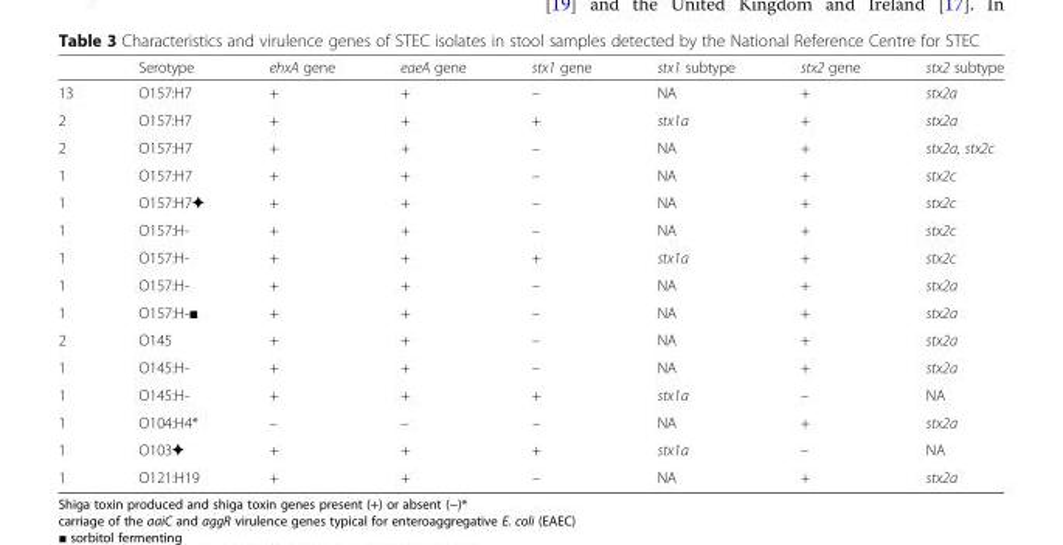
<table><thead><tr><td></td><td>Serotype</td><td>ehxA gene</td><td>eaeA gene</td><td>stx1 gene</td><td>stx1 subtype</td><td>stx2 gene</td><td>stx2 subtype</td></tr></thead><tbody><tr><td>13</td><td>O157:H7</td><td>+</td><td>+</td><td>–</td><td>NA</td><td>+</td><td>stx2a</td></tr><tr><td>2</td><td>O157:H7</td><td>+</td><td>+</td><td>+</td><td>stx1a</td><td>+</td><td>stx2a</td></tr><tr><td>2</td><td>O157:H7</td><td>+</td><td>+</td><td>–</td><td>NA</td><td>+</td><td>stx2a, stx2c</td></tr><tr><td>1</td><td>O157:H7</td><td>+</td><td>+</td><td>–</td><td>NA</td><td>+</td><td>stx2c</td></tr><tr><td>1</td><td>O157:H7✦</td><td>+</td><td>+</td><td>–</td><td>NA</td><td>+</td><td>stx2c</td></tr><tr><td>1</td><td>O157:H-</td><td>+</td><td>+</td><td>–</td><td>NA</td><td>+</td><td>stx2c</td></tr><tr><td>1</td><td>O157:H-</td><td>+</td><td>+</td><td>+</td><td>stx1a</td><td>+</td><td>stx2c</td></tr><tr><td>1</td><td>O157:H-</td><td>+</td><td>+</td><td>–</td><td>NA</td><td>+</td><td>stx2a</td></tr><tr><td>1</td><td>O157:H-■</td><td>+</td><td>+</td><td>–</td><td>NA</td><td>+</td><td>stx2a</td></tr><tr><td>2</td><td>O145</td><td>+</td><td>+</td><td>–</td><td>NA</td><td>+</td><td>stx2a</td></tr><tr><td>1</td><td>O145:H-</td><td>+</td><td>+</td><td>–</td><td>NA</td><td>+</td><td>stx2a</td></tr><tr><td>1</td><td>O145:H-</td><td>+</td><td>+</td><td>+</td><td>stx1a</td><td>–</td><td>NA</td></tr><tr><td>1</td><td>O104:H4*</td><td>–</td><td>–</td><td>–</td><td>NA</td><td>+</td><td>stx2a</td></tr><tr><td>1</td><td>O103✦</td><td>+</td><td>+</td><td>+</td><td>stx1a</td><td>–</td><td>NA</td></tr><tr><td>1</td><td>O121:H19</td><td>+</td><td>+</td><td>–</td><td>NA</td><td>+</td><td>stx2a</td></tr></tbody></table>